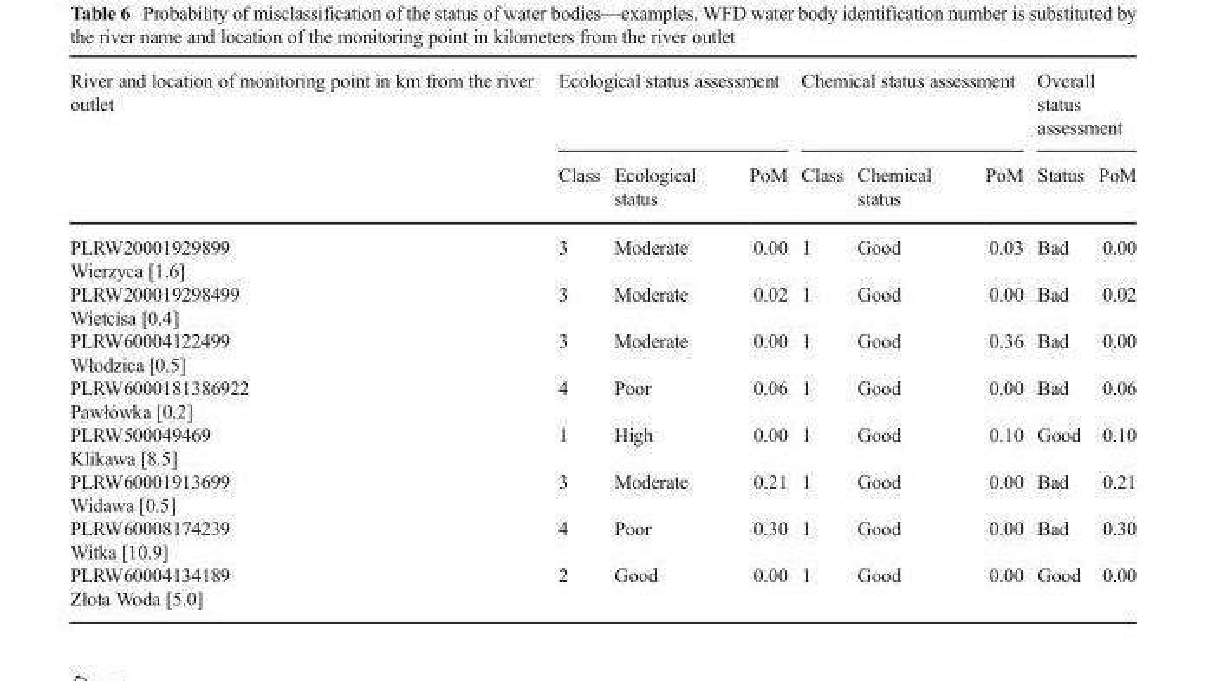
<table><thead><tr><td rowspan="2">River and location of monitoring point in km from the river outlet</td><td colspan="3">Ecological status assessment</td><td colspan="3">Chemical status assessment</td><td colspan="2">Overall status assessment</td></tr><tr><td>Class</td><td>Ecological status</td><td>PoM</td><td>Class</td><td>Chemical status</td><td>PoM</td><td>Status</td><td>PoM</td></tr></thead><tbody><tr><td>PLRW20001929899 Wierzyca [1.6]</td><td>3</td><td>Moderate</td><td>0.00</td><td>1</td><td>Good</td><td>0.03</td><td>Bad</td><td>0.00</td></tr><tr><td>PLRW200019298499 Wietcisa [0.4]</td><td>3</td><td>Moderate</td><td>0.02</td><td>1</td><td>Good</td><td>0.00</td><td>Bad</td><td>0.02</td></tr><tr><td>PLRW60004122499 Włodzica [0.5]</td><td>3</td><td>Moderate</td><td>0.00</td><td>1</td><td>Good</td><td>0.36</td><td>Bad</td><td>0.00</td></tr><tr><td>PLRW6000181386922 Pawłówka [0.2]</td><td>4</td><td>Poor</td><td>0.06</td><td>1</td><td>Good</td><td>0.00</td><td>Bad</td><td>0.06</td></tr><tr><td>PLRW500049469 Klikawa [8.5]</td><td>1</td><td>High</td><td>0.00</td><td>1</td><td>Good</td><td>0.10</td><td>Good</td><td>0.10</td></tr><tr><td>PLRW60001913699 Widawa [0.5]</td><td>3</td><td>Moderate</td><td>0.21</td><td>1</td><td>Good</td><td>0.00</td><td>Bad</td><td>0.21</td></tr><tr><td>PLRW60008174239 Witka [10.9]</td><td>4</td><td>Poor</td><td>0.30</td><td>1</td><td>Good</td><td>0.00</td><td>Bad</td><td>0.30</td></tr><tr><td>PLRW60004134189 Złota Woda [5.0]</td><td>2</td><td>Good</td><td>0.00</td><td>1</td><td>Good</td><td>0.00</td><td>Good</td><td>0.00</td></tr></tbody></table>